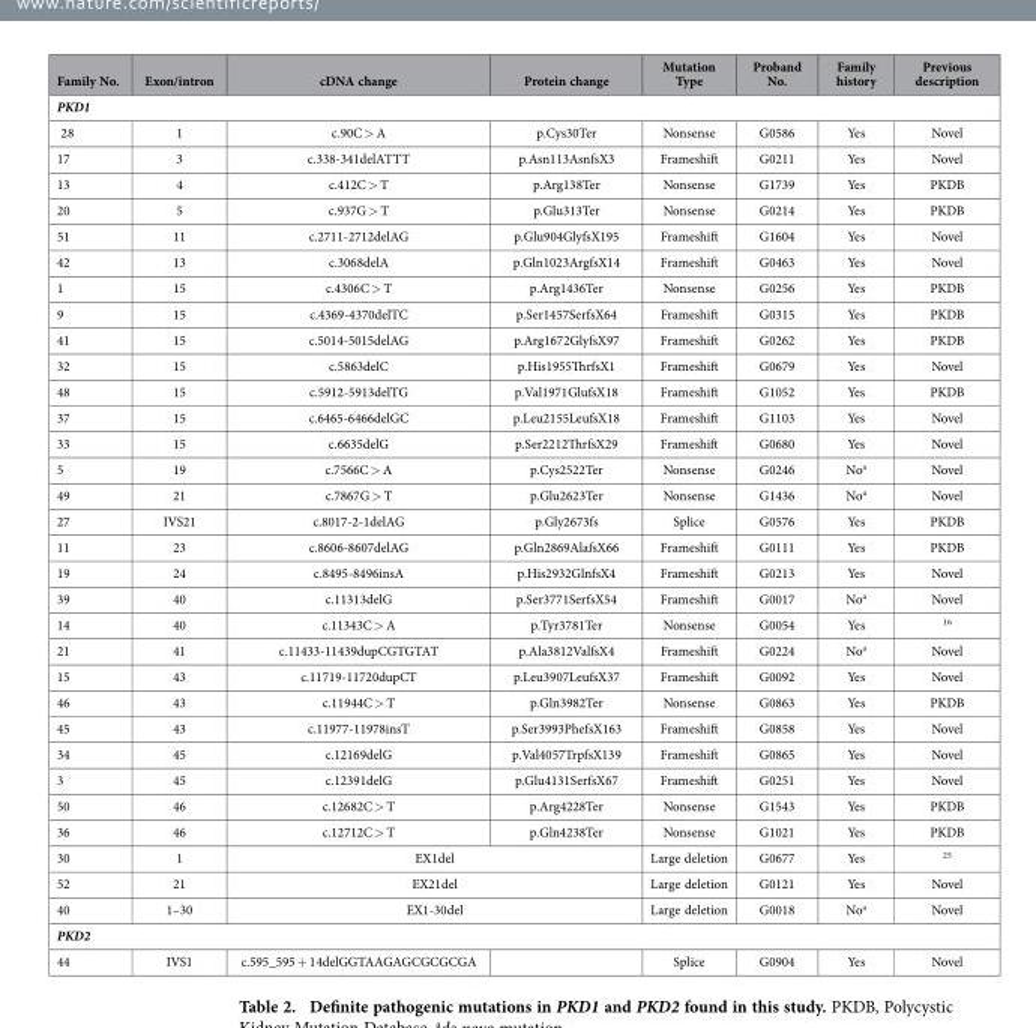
<table><thead><tr><td>Family No.</td><td>Exon/intron</td><td>cDNA change</td><td>Protein change</td><td>Mutation Type</td><td>Proband No.</td><td>Family history</td><td>Previous description</td></tr></thead><tbody><tr><td colspan="8">PKD1</td></tr><tr><td>28</td><td>1</td><td>c.90C &gt; A</td><td>p.Cys30Ter</td><td>Nonsense</td><td>G0586</td><td>Yes</td><td>Novel</td></tr><tr><td>17</td><td>3</td><td>c.338-341delATTT</td><td>p.Asn113AsnfsX3</td><td>Frameshift</td><td>G0211</td><td>Yes</td><td>Novel</td></tr><tr><td>13</td><td>4</td><td>c.412C &gt; T</td><td>p.Arg138Ter</td><td>Nonsense</td><td>G1739</td><td>Yes</td><td>PKDB</td></tr><tr><td>20</td><td>5</td><td>c.937G &gt; T</td><td>p.Glu313Ter</td><td>Nonsense</td><td>G0214</td><td>Yes</td><td>PKDB</td></tr><tr><td>51</td><td>11</td><td>c.2711-2712delAG</td><td>p.Glu904GlyfsX195</td><td>Frameshift</td><td>G1604</td><td>Yes</td><td>Novel</td></tr><tr><td>42</td><td>13</td><td>c.3068delA</td><td>p.Gln1023ArgfsX14</td><td>Frameshift</td><td>G0463</td><td>Yes</td><td>Novel</td></tr><tr><td>1</td><td>15</td><td>c.4306C &gt; T</td><td>p.Arg1436Ter</td><td>Nonsense</td><td>G0256</td><td>Yes</td><td>PKDB</td></tr><tr><td>9</td><td>15</td><td>c.4369-4370delTC</td><td>p.Ser1457SerfsX64</td><td>Frameshift</td><td>G0315</td><td>Yes</td><td>PKDB</td></tr><tr><td>41</td><td>15</td><td>c.5014-5015delAG</td><td>p.Arg1672GlyfsX97</td><td>Frameshift</td><td>G0262</td><td>Yes</td><td>PKDB</td></tr><tr><td>32</td><td>15</td><td>c.5863delC</td><td>p.His1955ThrfsX1</td><td>Frameshift</td><td>G0679</td><td>Yes</td><td>Novel</td></tr><tr><td>48</td><td>15</td><td>c.5912-5913delTG</td><td>p.Val1971GlufsX18</td><td>Frameshift</td><td>G1052</td><td>Yes</td><td>PKDB</td></tr><tr><td>37</td><td>15</td><td>c.6465-6466delGC</td><td>p.Leu2155LeufsX18</td><td>Frameshift</td><td>G1103</td><td>Yes</td><td>Novel</td></tr><tr><td>33</td><td>15</td><td>c.6635delG</td><td>p.Ser2212ThrfsX29</td><td>Frameshift</td><td>G0680</td><td>Yes</td><td>Novel</td></tr><tr><td>5</td><td>19</td><td>c.7566C &gt; A</td><td>p.Cys2522Ter</td><td>Nonsense</td><td>G0246</td><td>No<sup>a</sup></td><td>Novel</td></tr><tr><td>49</td><td>21</td><td>c.7867G &gt; T</td><td>p.Glu2623Ter</td><td>Nonsense</td><td>G1436</td><td>No<sup>a</sup></td><td>Novel</td></tr><tr><td>27</td><td>IVS21</td><td>c.8017-2-1delAG</td><td>p.Gly2673fs</td><td>Splice</td><td>G0576</td><td>Yes</td><td>PKDB</td></tr><tr><td>11</td><td>23</td><td>c.8606-8607delAG</td><td>p.Gln2869AlafsX66</td><td>Frameshift</td><td>G0111</td><td>Yes</td><td>PKDB</td></tr><tr><td>19</td><td>24</td><td>c.8495-8496insA</td><td>p.His2932GlnfsX4</td><td>Frameshift</td><td>G0213</td><td>Yes</td><td>Novel</td></tr><tr><td>39</td><td>40</td><td>c.11313delG</td><td>p.Ser3771SerfsX54</td><td>Frameshift</td><td>G0017</td><td>No<sup>a</sup></td><td>Novel</td></tr><tr><td>14</td><td>40</td><td>c.11343C &gt; A</td><td>p.Tyr3781Ter</td><td>Nonsense</td><td>G0054</td><td>Yes</td><td>16</td></tr><tr><td>21</td><td>41</td><td>c.11433-11439dupCGTGTAT</td><td>p.Ala3812ValfsX4</td><td>Frameshift</td><td>G0224</td><td>No<sup>a</sup></td><td>Novel</td></tr><tr><td>15</td><td>43</td><td>c.11719-11720dupCT</td><td>p.Leu3907LeufsX37</td><td>Frameshift</td><td>G0092</td><td>Yes</td><td>Novel</td></tr><tr><td>46</td><td>43</td><td>c.11944C &gt; T</td><td>p.Gln3982Ter</td><td>Nonsense</td><td>G0863</td><td>Yes</td><td>PKDB</td></tr><tr><td>45</td><td>43</td><td>c.11977-11978insT</td><td>p.Ser3993PhefsX163</td><td>Frameshift</td><td>G0858</td><td>Yes</td><td>Novel</td></tr><tr><td>34</td><td>45</td><td>c.12169delG</td><td>p.Val4057TrpfsX139</td><td>Frameshift</td><td>G0865</td><td>Yes</td><td>Novel</td></tr><tr><td>3</td><td>45</td><td>c.12391delG</td><td>p.Glu4131SerfsX67</td><td>Frameshift</td><td>G0251</td><td>Yes</td><td>Novel</td></tr><tr><td>50</td><td>46</td><td>c.12682C &gt; T</td><td>p.Arg4228Ter</td><td>Nonsense</td><td>G1543</td><td>Yes</td><td>PKDB</td></tr><tr><td>36</td><td>46</td><td>c.12712C &gt; T</td><td>p.Gln4238Ter</td><td>Nonsense</td><td>G1021</td><td>Yes</td><td>PKDB</td></tr><tr><td>30</td><td>1</td><td colspan="2">EX1del</td><td>Large deletion</td><td>G0677</td><td>Yes</td><td>25</td></tr><tr><td>52</td><td>21</td><td colspan="2">EX21del</td><td>Large deletion</td><td>G0121</td><td>Yes</td><td>Novel</td></tr><tr><td>40</td><td>1–30</td><td colspan="2">EX1-30del</td><td>Large deletion</td><td>G0018</td><td>No<sup>a</sup></td><td>Novel</td></tr><tr><td colspan="8">PKD2</td></tr><tr><td>44</td><td>IVS1</td><td>c.595_595 + 14delGGTAAGAGCGCGCGA</td><td></td><td>Splice</td><td>G0904</td><td>Yes</td><td>Novel</td></tr></tbody></table>